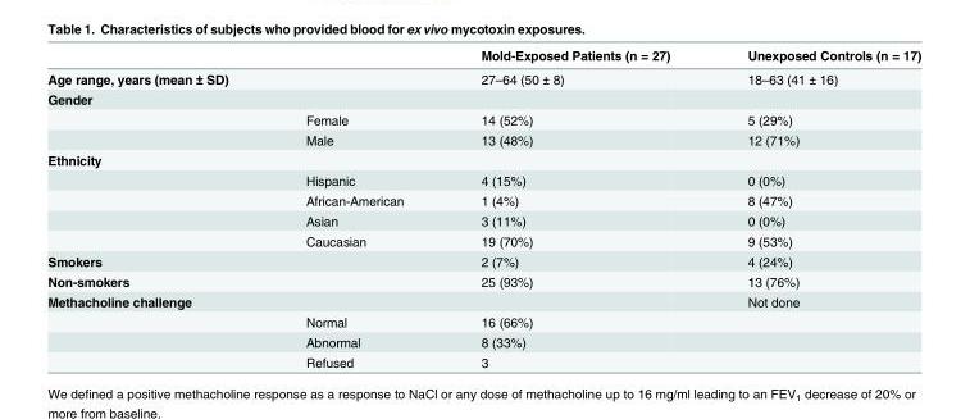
<table><thead><tr><td></td><td></td><td>Mold-Exposed Patients (n = 27)</td><td>Unexposed Controls (n = 17)</td></tr></thead><tbody><tr><td>Age range, years (mean ± SD)</td><td></td><td>27–64 (50 ± 8)</td><td>18–63 (41 ± 16)</td></tr><tr><td colspan="4">Gender</td></tr><tr><td></td><td>Female</td><td>14 (52%)</td><td>5 (29%)</td></tr><tr><td></td><td>Male</td><td>13 (48%)</td><td>12 (71%)</td></tr><tr><td colspan="4">Ethnicity</td></tr><tr><td></td><td>Hispanic</td><td>4 (15%)</td><td>0 (0%)</td></tr><tr><td></td><td>African-American</td><td>1 (4%)</td><td>8 (47%)</td></tr><tr><td></td><td>Asian</td><td>3 (11%)</td><td>0 (0%)</td></tr><tr><td></td><td>Caucasian</td><td>19 (70%)</td><td>9 (53%)</td></tr><tr><td>Smokers</td><td></td><td>2 (7%)</td><td>4 (24%)</td></tr><tr><td>Non-smokers</td><td></td><td>25 (93%)</td><td>13 (76%)</td></tr><tr><td rowspan="4">Methacholine challenge</td><td></td><td></td><td>Not done</td></tr><tr><td>Normal</td><td>16 (66%)</td><td></td></tr><tr><td>Abnormal</td><td>8 (33%)</td><td></td></tr><tr><td>Refused</td><td>3</td><td></td></tr></tbody></table>